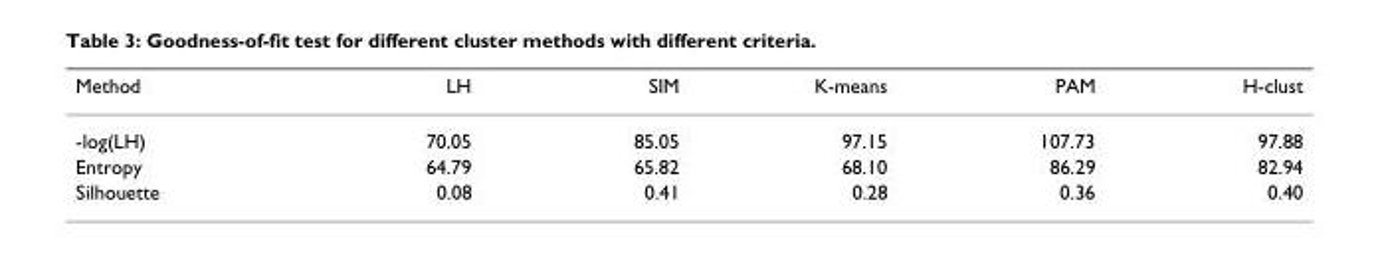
<table><thead><tr><td>Method</td><td>LH</td><td>SIM</td><td>K-means</td><td>PAM</td><td>H-clust</td></tr></thead><tbody><tr><td>-log(LH)</td><td>70.05</td><td>85.05</td><td>97.15</td><td>107.73</td><td>97.88</td></tr><tr><td>Entropy</td><td>64.79</td><td>65.82</td><td>68.10</td><td>86.29</td><td>82.94</td></tr><tr><td>Silhouette</td><td>0.08</td><td>0.41</td><td>0.28</td><td>0.36</td><td>0.40</td></tr></tbody></table>